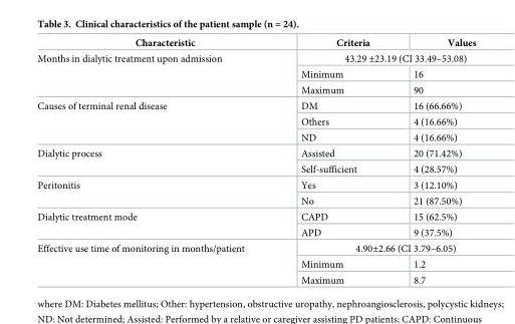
<table><thead><tr><td>Characteristic</td><td>Criteria</td><td>Values</td></tr></thead><tbody><tr><td rowspan="3">Months in dialytic treatment upon admission</td><td colspan="2">43.29 ±23.19 (CI 33.49–53.08)</td></tr><tr><td>Minimum</td><td>16</td></tr><tr><td>Maximum</td><td>90</td></tr><tr><td rowspan="3">Causes of terminal renal disease</td><td>DM</td><td>16 (66.66%)</td></tr><tr><td>Others</td><td>4 (16.66%)</td></tr><tr><td>ND</td><td>4 (16.66%)</td></tr><tr><td rowspan="2">Dialytic process</td><td>Assisted</td><td>20 (71.42%)</td></tr><tr><td>Self-sufficient</td><td>4 (28.57%)</td></tr><tr><td rowspan="2">Peritonitis</td><td>Yes</td><td>3 (12.10%)</td></tr><tr><td>No</td><td>21 (87.50%)</td></tr><tr><td rowspan="2">Dialytic treatment mode</td><td>CAPD</td><td>15 (62.5%)</td></tr><tr><td>APD</td><td>9 (37.5%)</td></tr><tr><td rowspan="3">Effective use time of monitoring in months/patient</td><td colspan="2">4.90±2.66 (CI 3.79–6.05)</td></tr><tr><td>Minimum</td><td>1.2</td></tr><tr><td>Maximum</td><td>8.7</td></tr></tbody></table>